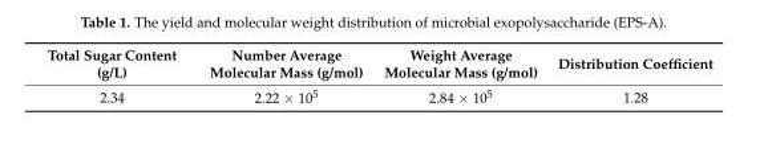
<table><thead><tr><td>Total Sugar Content (g/L)</td><td>Number Average Molecular Mass (g/mol)</td><td>Weight Average Molecular Mass (g/mol)</td><td>Distribution Coefficient</td></tr></thead><tbody><tr><td>2.34</td><td>2.22 × 10<sup>5</sup></td><td>2.84 × 10<sup>5</sup></td><td>1.28</td></tr></tbody></table>